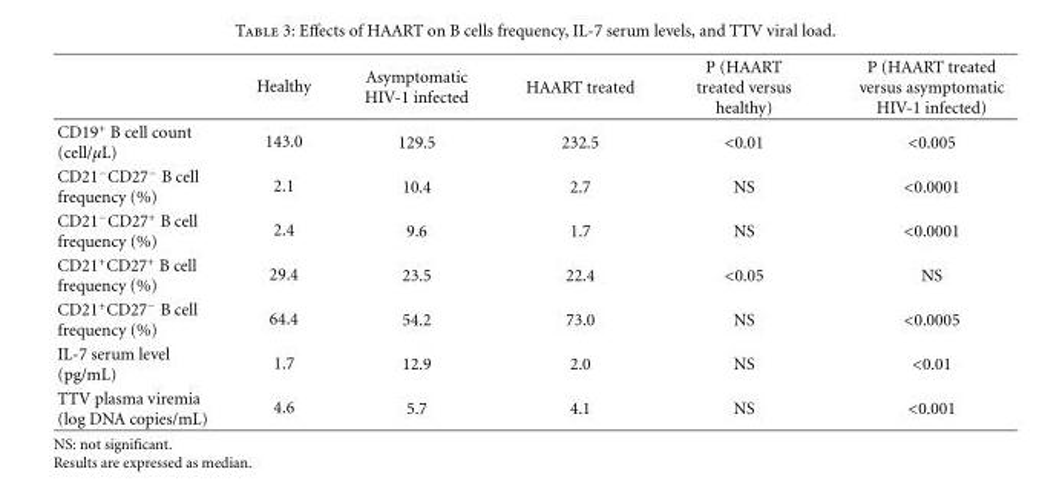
<table><thead><tr><td></td><td>Healthy</td><td>Asymptomatic HIV-1 infected</td><td>HAART treated</td><td>P (HAART treated versus healthy)</td><td>P (HAART treated versus asymptomatic HIV-1 infected)</td></tr></thead><tbody><tr><td>CD19<sup>+</sup> B cell count (cell/μL)</td><td>143.0</td><td>129.5</td><td>232.5</td><td>&lt;0.01</td><td>&lt;0.005</td></tr><tr><td>CD21<sup>−</sup>CD27<sup>−</sup> B cell frequency (%)</td><td>2.1</td><td>10.4</td><td>2.7</td><td>NS</td><td>&lt;0.0001</td></tr><tr><td>CD21<sup>−</sup>CD27<sup>+</sup> B cell frequency (%)</td><td>2.4</td><td>9.6</td><td>1.7</td><td>NS</td><td>&lt;0.0001</td></tr><tr><td>CD21<sup>+</sup>CD27<sup>+</sup> B cell frequency (%)</td><td>29.4</td><td>23.5</td><td>22.4</td><td>&lt;0.05</td><td>NS</td></tr><tr><td>CD21<sup>+</sup>CD27<sup>−</sup> B cell frequency (%)</td><td>64.4</td><td>54.2</td><td>73.0</td><td>NS</td><td>&lt;0.0005</td></tr><tr><td>IL-7 serum level (pg/mL)</td><td>1.7</td><td>12.9</td><td>2.0</td><td>NS</td><td>&lt;0.01</td></tr><tr><td>TTV plasma viremia (log DNA copies/mL)</td><td>4.6</td><td>5.7</td><td>4.1</td><td>NS</td><td>&lt;0.001</td></tr></tbody></table>